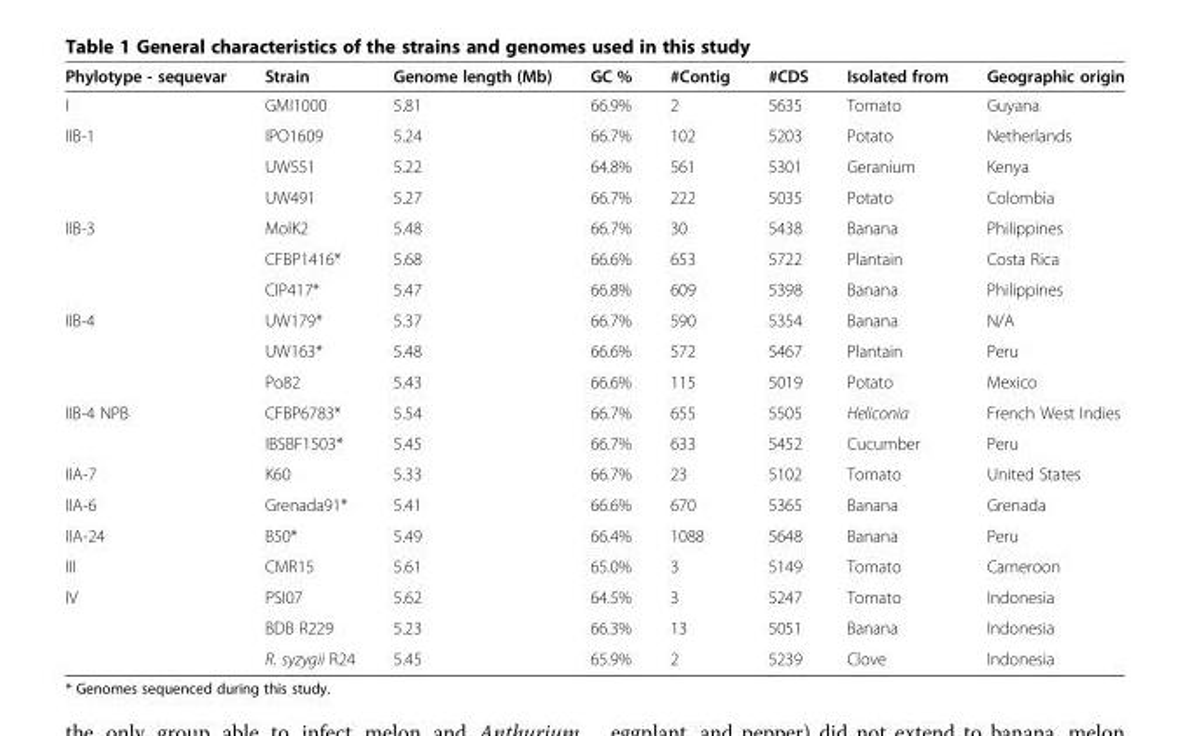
<table><thead><tr><td>Phylotype - sequevar</td><td>Strain</td><td>Genome length (Mb)</td><td>GC %</td><td>#Contig</td><td>#CDS</td><td>Isolated from</td><td>Geographic origin</td></tr></thead><tbody><tr><td>I</td><td>GMI1000</td><td>5.81</td><td>66.9%</td><td>2</td><td>5635</td><td>Tomato</td><td>Guyana</td></tr><tr><td rowspan="3">IIB-1</td><td>IPO1609</td><td>5.24</td><td>66.7%</td><td>102</td><td>5203</td><td>Potato</td><td>Netherlands</td></tr><tr><td>UW551</td><td>5.22</td><td>64.8%</td><td>561</td><td>5301</td><td>Geranium</td><td>Kenya</td></tr><tr><td>UW491</td><td>5.27</td><td>66.7%</td><td>222</td><td>5035</td><td>Potato</td><td>Colombia</td></tr><tr><td rowspan="3">IIB-3</td><td>MolK2</td><td>5.48</td><td>66.7%</td><td>30</td><td>5438</td><td>Banana</td><td>Philippines</td></tr><tr><td>CFBP1416*</td><td>5.68</td><td>66.6%</td><td>653</td><td>5722</td><td>Plantain</td><td>Costa Rica</td></tr><tr><td>CIP417*</td><td>5.47</td><td>66.8%</td><td>609</td><td>5398</td><td>Banana</td><td>Philippines</td></tr><tr><td rowspan="3">IIB-4</td><td>UW179*</td><td>5.37</td><td>66.7%</td><td>590</td><td>5354</td><td>Banana</td><td>N/A</td></tr><tr><td>UW163*</td><td>5.48</td><td>66.6%</td><td>572</td><td>5467</td><td>Plantain</td><td>Peru</td></tr><tr><td>Po82</td><td>5.43</td><td>66.6%</td><td>115</td><td>5019</td><td>Potato</td><td>Mexico</td></tr><tr><td rowspan="2">IIB-4 NPB</td><td>CFBP6783*</td><td>5.54</td><td>66.7%</td><td>655</td><td>5505</td><td>Heliconia</td><td>French West Indies</td></tr><tr><td>IBSBF1503*</td><td>5.45</td><td>66.7%</td><td>633</td><td>5452</td><td>Cucumber</td><td>Peru</td></tr><tr><td>IIA-7</td><td>K60</td><td>5.33</td><td>66.7%</td><td>23</td><td>5102</td><td>Tomato</td><td>United States</td></tr><tr><td>IIA-6</td><td>Grenada91*</td><td>5.41</td><td>66.6%</td><td>670</td><td>5365</td><td>Banana</td><td>Grenada</td></tr><tr><td>IIA-24</td><td>B50*</td><td>5.49</td><td>66.4%</td><td>1088</td><td>5648</td><td>Banana</td><td>Peru</td></tr><tr><td>III</td><td>CMR15</td><td>5.61</td><td>65.0%</td><td>3</td><td>5149</td><td>Tomato</td><td>Cameroon</td></tr><tr><td rowspan="3">IV</td><td>PSI07</td><td>5.62</td><td>64.5%</td><td>3</td><td>5247</td><td>Tomato</td><td>Indonesia</td></tr><tr><td>BDB R229</td><td>5.23</td><td>66.3%</td><td>13</td><td>5051</td><td>Banana</td><td>Indonesia</td></tr><tr><td>R. syzygii R24</td><td>5.45</td><td>65.9%</td><td>2</td><td>5239</td><td>Clove</td><td>Indonesia</td></tr></tbody></table>